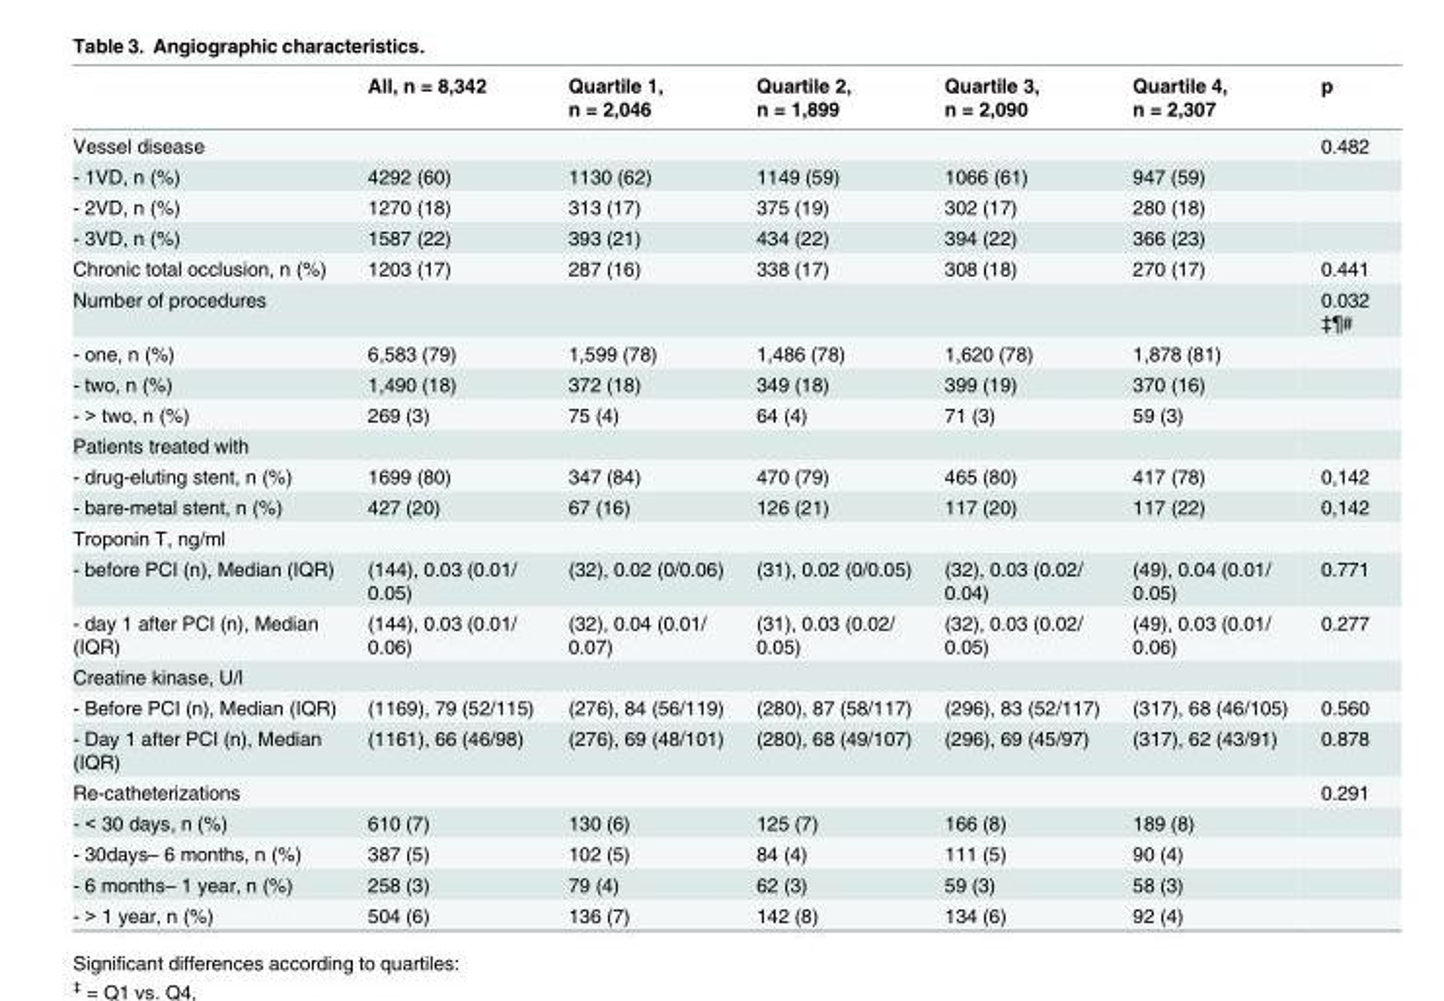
<table><thead><tr><td></td><td>All, n = 8,342</td><td>Quartile 1, n = 2,046</td><td>Quartile 2, n = 1,899</td><td>Quartile 3, n = 2,090</td><td>Quartile 4, n = 2,307</td><td>p</td></tr></thead><tbody><tr><td>Vessel disease</td><td></td><td></td><td></td><td></td><td></td><td>0.482</td></tr><tr><td>- 1VD, n (%)</td><td>4292 (60)</td><td>1130 (62)</td><td>1149 (59)</td><td>1066 (61)</td><td>947 (59)</td><td></td></tr><tr><td>- 2VD, n (%)</td><td>1270 (18)</td><td>313 (17)</td><td>375 (19)</td><td>302 (17)</td><td>280 (18)</td><td></td></tr><tr><td>- 3VD, n (%)</td><td>1587 (22)</td><td>393 (21)</td><td>434 (22)</td><td>394 (22)</td><td>366 (23)</td><td></td></tr><tr><td>Chronic total occlusion, n (%)</td><td>1203 (17)</td><td>287 (16)</td><td>338 (17)</td><td>308 (18)</td><td>270 (17)</td><td>0.441</td></tr><tr><td>Number of procedures</td><td></td><td></td><td></td><td></td><td></td><td>0.032 ‡¶#</td></tr><tr><td>- one, n (%)</td><td>6,583 (79)</td><td>1,599 (78)</td><td>1,486 (78)</td><td>1,620 (78)</td><td>1,878 (81)</td><td></td></tr><tr><td>- two, n (%)</td><td>1,490 (18)</td><td>372 (18)</td><td>349 (18)</td><td>399 (19)</td><td>370 (16)</td><td></td></tr><tr><td>- &gt; two, n (%)</td><td>269 (3)</td><td>75 (4)</td><td>64 (4)</td><td>71 (3)</td><td>59 (3)</td><td></td></tr><tr><td colspan="7">Patients treated with</td></tr><tr><td>- drug-eluting stent, n (%)</td><td>1699 (80)</td><td>347 (84)</td><td>470 (79)</td><td>465 (80)</td><td>417 (78)</td><td>0,142</td></tr><tr><td>- bare-metal stent, n (%)</td><td>427 (20)</td><td>67 (16)</td><td>126 (21)</td><td>117 (20)</td><td>117 (22)</td><td>0,142</td></tr><tr><td colspan="7">Troponin T, ng/ml</td></tr><tr><td>- before PCI (n), Median (IQR)</td><td>(144), 0.03 (0.01/ 0.05)</td><td>(32), 0.02 (0/0.06)</td><td>(31), 0.02 (0/0.05)</td><td>(32), 0.03 (0.02/ 0.04)</td><td>(49), 0.04 (0.01/ 0.05)</td><td>0.771</td></tr><tr><td>- day 1 after PCI (n), Median (IQR)</td><td>(144), 0.03 (0.01/ 0.06)</td><td>(32), 0.04 (0.01/ 0.07)</td><td>(31), 0.03 (0.02/ 0.05)</td><td>(32), 0.03 (0.02/ 0.05)</td><td>(49), 0.03 (0.01/ 0.06)</td><td>0.277</td></tr><tr><td colspan="7">Creatine kinase, U/l</td></tr><tr><td>- Before PCI (n), Median (IQR)</td><td>(1169), 79 (52/115)</td><td>(276), 84 (56/119)</td><td>(280), 87 (58/117)</td><td>(296), 83 (52/117)</td><td>(317), 68 (46/105)</td><td>0.560</td></tr><tr><td>- Day 1 after PCI (n), Median (IQR)</td><td>(1161), 66 (46/98)</td><td>(276), 69 (48/101)</td><td>(280), 68 (49/107)</td><td>(296), 69 (45/97)</td><td>(317), 62 (43/91)</td><td>0.878</td></tr><tr><td>Re-catheterizations</td><td></td><td></td><td></td><td></td><td></td><td>0.291</td></tr><tr><td>- &lt; 30 days, n (%)</td><td>610 (7)</td><td>130 (6)</td><td>125 (7)</td><td>166 (8)</td><td>189 (8)</td><td></td></tr><tr><td>- 30days– 6 months, n (%)</td><td>387 (5)</td><td>102 (5)</td><td>84 (4)</td><td>111 (5)</td><td>90 (4)</td><td></td></tr><tr><td>- 6 months– 1 year, n (%)</td><td>258 (3)</td><td>79 (4)</td><td>62 (3)</td><td>59 (3)</td><td>58 (3)</td><td></td></tr><tr><td>- &gt; 1 year, n (%)</td><td>504 (6)</td><td>136 (7)</td><td>142 (8)</td><td>134 (6)</td><td>92 (4)</td><td></td></tr></tbody></table>